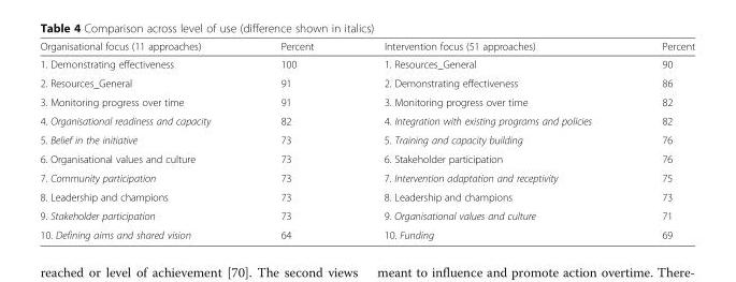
<table><thead><tr><td>Organisational focus (11 approaches)</td><td>Percent</td><td>Intervention focus (51 approaches)</td><td>Percent</td></tr></thead><tbody><tr><td>1. Demonstrating effectiveness</td><td>100</td><td>1. Resources_General</td><td>90</td></tr><tr><td>2. Resources_General</td><td>91</td><td>2. Demonstrating effectiveness</td><td>86</td></tr><tr><td>3. Monitoring progress over time</td><td>91</td><td>3. Monitoring progress over time</td><td>82</td></tr><tr><td>4. Organisational readiness and capacity</td><td>82</td><td>4. Integration with existing programs and policies</td><td>82</td></tr><tr><td>5. Belief in the initiative</td><td>73</td><td>5. Training and capacity building</td><td>76</td></tr><tr><td>6. Organisational values and culture</td><td>73</td><td>6. Stakeholder participation</td><td>76</td></tr><tr><td>7. Community participation</td><td>73</td><td>7. Intervention adaptation and receptivity</td><td>75</td></tr><tr><td>8. Leadership and champions</td><td>73</td><td>8. Leadership and champions</td><td>73</td></tr><tr><td>9. Stakeholder participation</td><td>73</td><td>9. Organisational values and culture</td><td>71</td></tr><tr><td>10. Defining aims and shared vision</td><td>64</td><td>10. Funding</td><td>69</td></tr></tbody></table>